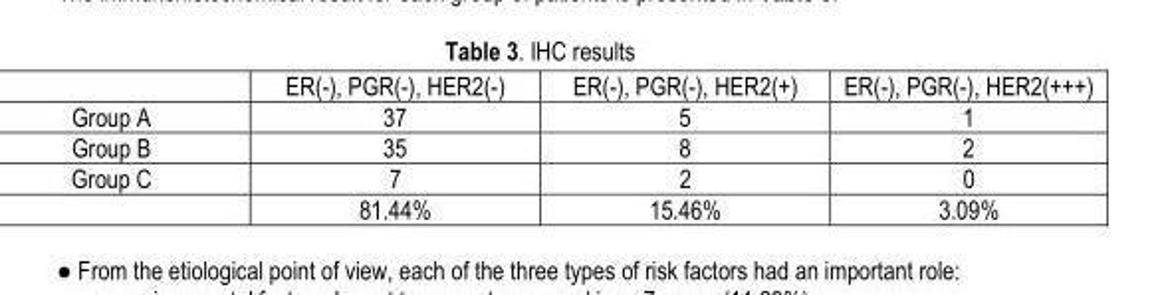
<table><thead><tr><td></td><td>ER(-), PGR(-), HER2(-)</td><td>ER(-), PGR(-), HER2(+)</td><td>ER(-), PGR(-), HER2(+++)</td></tr></thead><tbody><tr><td>Group A</td><td>37</td><td>5</td><td>1</td></tr><tr><td>Group B</td><td>35</td><td>8</td><td>2</td></tr><tr><td rowspan="2">Group C</td><td>7</td><td>2</td><td>0</td></tr><tr><td>81.44%</td><td>15.46%</td><td>3.09%</td></tr></tbody></table>